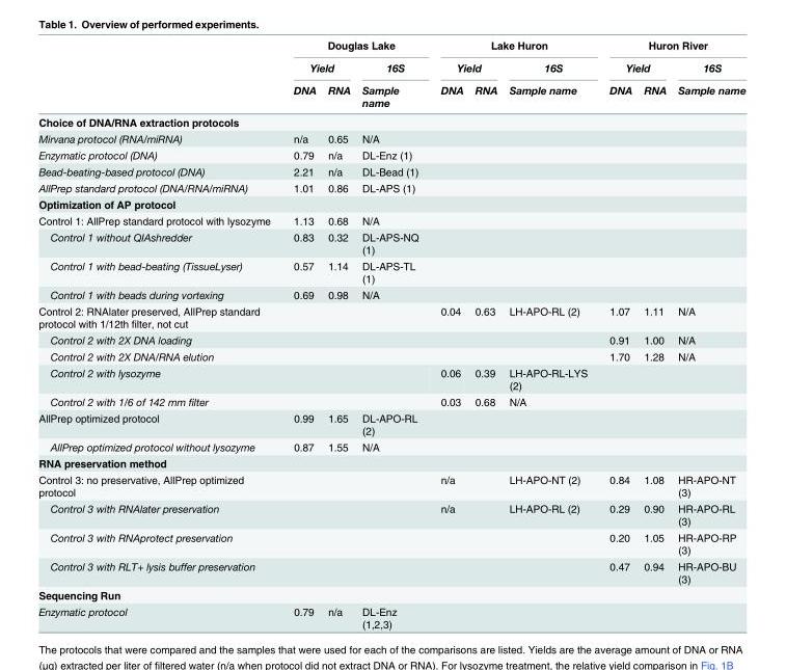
<table><thead><tr><td rowspan="3"></td><td colspan="3">Douglas Lake</td><td colspan="3">Lake Huron</td><td colspan="3">Huron River</td></tr><tr><td colspan="2">Yield</td><td rowspan="2">16S Sample name</td><td colspan="2">Yield</td><td rowspan="2">16S Sample name</td><td colspan="2">Yield</td><td rowspan="2">16S Sample name</td></tr><tr><td>DNA</td><td>RNA</td><td>DNA</td><td>RNA</td><td>DNA</td><td>RNA</td></tr></thead><tbody><tr><td colspan="10">Choice of DNA/RNA extraction protocols</td></tr><tr><td>Mirvana protocol (RNA/miRNA)</td><td>n/a</td><td>0.65</td><td>N/A</td><td colspan="2"></td><td></td><td colspan="2"></td><td></td></tr><tr><td>Enzymatic protocol (DNA)</td><td>0.79</td><td>n/a</td><td>DL-Enz (1)</td><td colspan="2"></td><td></td><td colspan="2"></td><td></td></tr><tr><td>Bead-beating-based protocol (DNA)</td><td>2.21</td><td>n/a</td><td>DL-Bead (1)</td><td colspan="2"></td><td></td><td colspan="2"></td><td></td></tr><tr><td>AllPrep standard protocol (DNA/RNA/miRNA)</td><td>1.01</td><td>0.86</td><td>DL-APS (1)</td><td colspan="2"></td><td></td><td colspan="2"></td><td></td></tr><tr><td colspan="10">Optimization of AP protocol</td></tr><tr><td>Control 1: AllPrep standard protocol with lysozyme</td><td>1.13</td><td>0.68</td><td>N/A</td><td colspan="2"></td><td></td><td colspan="2"></td><td></td></tr><tr><td>Control 1 without QIAshredder</td><td>0.83</td><td>0.32</td><td>DL-APS-NQ (1)</td><td colspan="2"></td><td></td><td colspan="2"></td><td></td></tr><tr><td>Control 1 with bead-beating (TissueLyser)</td><td>0.57</td><td>1.14</td><td>DL-APS-TL (1)</td><td colspan="2"></td><td></td><td colspan="2"></td><td></td></tr><tr><td>Control 1 with beads during vortexing</td><td>0.69</td><td>0.98</td><td>N/A</td><td colspan="2"></td><td></td><td colspan="2"></td><td></td></tr><tr><td>Control 2: RNAlater preserved, AllPrep standard protocol with 1/12th filter, not cut</td><td colspan="2"></td><td></td><td>0.04</td><td>0.63</td><td>LH-APO-RL (2)</td><td>1.07</td><td>1.11</td><td>N/A</td></tr><tr><td>Control 2 with 2X DNA loading</td><td colspan="2"></td><td></td><td colspan="2"></td><td></td><td>0.91</td><td>1.00</td><td>N/A</td></tr><tr><td>Control 2 with 2X DNA/RNA elution</td><td colspan="2"></td><td></td><td colspan="2"></td><td></td><td>1.70</td><td>1.28</td><td>N/A</td></tr><tr><td>Control 2 with lysozyme</td><td colspan="2"></td><td></td><td>0.06</td><td>0.39</td><td>LH-APO-RL-LYS (2)</td><td colspan="2"></td><td></td></tr><tr><td>Control 2 with 1/6 of 142 mm filter</td><td colspan="2"></td><td></td><td>0.03</td><td>0.68</td><td>N/A</td><td colspan="2"></td><td></td></tr><tr><td>AllPrep optimized protocol</td><td>0.99</td><td>1.65</td><td>DL-APO-RL (2)</td><td colspan="2"></td><td></td><td colspan="2"></td><td></td></tr><tr><td>AllPrep optimized protocol without lysozyme</td><td>0.87</td><td>1.55</td><td>N/A</td><td colspan="2"></td><td></td><td colspan="2"></td><td></td></tr><tr><td colspan="10">RNA preservation method</td></tr><tr><td>Control 3: no preservative, AllPrep optimized protocol</td><td colspan="2"></td><td></td><td colspan="2">n/a</td><td>LH-APO-NT (2)</td><td>0.84</td><td>1.08</td><td>HR-APO-NT (3)</td></tr><tr><td>Control 3 with RNAlater preservation</td><td colspan="2"></td><td></td><td colspan="2">n/a</td><td>LH-APO-RL (2)</td><td>0.29</td><td>0.90</td><td>HR-APO-RL (3)</td></tr><tr><td>Control 3 with RNAprotect preservation</td><td colspan="2"></td><td></td><td colspan="2"></td><td></td><td>0.20</td><td>1.05</td><td>HR-APO-RP (3)</td></tr><tr><td>Control 3 with RLT+ lysis buffer preservation</td><td colspan="2"></td><td></td><td colspan="2"></td><td></td><td>0.47</td><td>0.94</td><td>HR-APO-BU (3)</td></tr><tr><td colspan="10">Sequencing Run</td></tr><tr><td>Enzymatic protocol</td><td>0.79</td><td>n/a</td><td>DL-Enz (1,2,3)</td><td colspan="2"></td><td></td><td colspan="2"></td><td></td></tr></tbody></table>